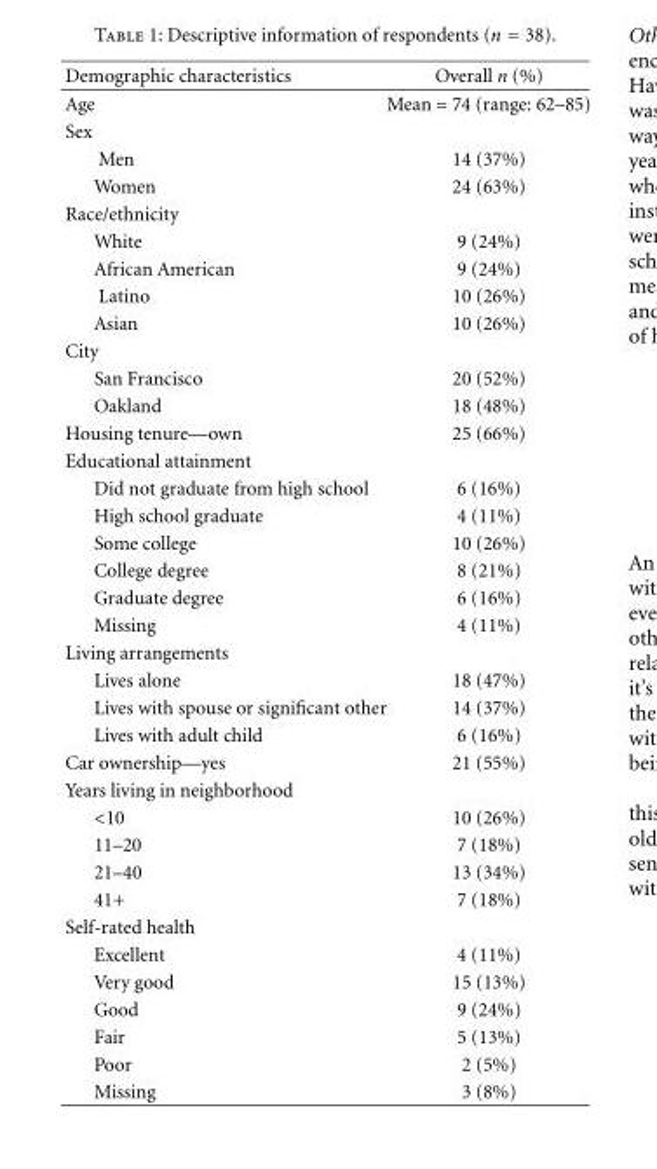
<table><thead><tr><td>Demographic characteristics</td><td>Overall n (%)</td></tr></thead><tbody><tr><td>Age</td><td>Mean = 74 (range: 62–85)</td></tr><tr><td colspan="2">Sex</td></tr><tr><td>Men</td><td>14 (37%)</td></tr><tr><td>Women</td><td>24 (63%)</td></tr><tr><td colspan="2">Race/ethnicity</td></tr><tr><td>White</td><td>9 (24%)</td></tr><tr><td>African American</td><td>9 (24%)</td></tr><tr><td>Latino</td><td>10 (26%)</td></tr><tr><td>Asian</td><td>10 (26%)</td></tr><tr><td colspan="2">City</td></tr><tr><td>San Francisco</td><td>20 (52%)</td></tr><tr><td>Oakland</td><td>18 (48%)</td></tr><tr><td>Housing tenure—own</td><td>25 (66%)</td></tr><tr><td colspan="2">Educational attainment</td></tr><tr><td>Did not graduate from high school</td><td>6 (16%)</td></tr><tr><td>High school graduate</td><td>4 (11%)</td></tr><tr><td>Some college</td><td>10 (26%)</td></tr><tr><td>College degree</td><td>8 (21%)</td></tr><tr><td>Graduate degree</td><td>6 (16%)</td></tr><tr><td>Missing</td><td>4 (11%)</td></tr><tr><td colspan="2">Living arrangements</td></tr><tr><td>Lives alone</td><td>18 (47%)</td></tr><tr><td>Lives with spouse or significant other</td><td>14 (37%)</td></tr><tr><td>Lives with adult child</td><td>6 (16%)</td></tr><tr><td>Car ownership—yes</td><td>21 (55%)</td></tr><tr><td colspan="2">Years living in neighborhood</td></tr><tr><td>&lt;10</td><td>10 (26%)</td></tr><tr><td>11–20</td><td>7 (18%)</td></tr><tr><td>21–40</td><td>13 (34%)</td></tr><tr><td>41+</td><td>7 (18%)</td></tr><tr><td colspan="2">Self-rated health</td></tr><tr><td>Excellent</td><td>4 (11%)</td></tr><tr><td>Very good</td><td>15 (13%)</td></tr><tr><td>Good</td><td>9 (24%)</td></tr><tr><td>Fair</td><td>5 (13%)</td></tr><tr><td>Poor</td><td>2 (5%)</td></tr><tr><td>Missing</td><td>3 (8%)</td></tr></tbody></table>